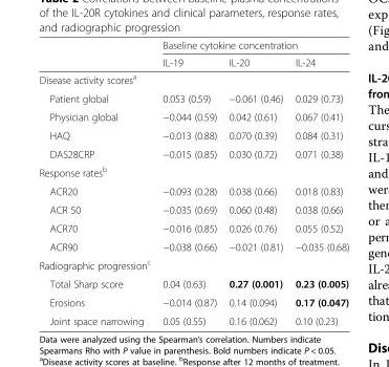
<table><thead><tr><td rowspan="2"></td><td colspan="3">Baseline cytokine concentration</td></tr><tr><td>IL-19</td><td>IL-20</td><td>IL-24</td></tr></thead><tbody><tr><td colspan="4">Disease activity scores<sup>a</sup></td></tr><tr><td>Patient global</td><td>0.053 (0.59)</td><td>−0.061 (0.46)</td><td>0.029 (0.73)</td></tr><tr><td>Physician global</td><td>−0.044 (0.59)</td><td>0.042 (0.61)</td><td>0.067 (0.41)</td></tr><tr><td>HAQ</td><td>−0.013 (0.88)</td><td>0.070 (0.39)</td><td>0.084 (0.31)</td></tr><tr><td>DAS28CRP</td><td>−0.015 (0.85)</td><td>0.030 (0.72)</td><td>0.071 (0.38)</td></tr><tr><td colspan="4">Response rates<sup>b</sup></td></tr><tr><td>ACR20</td><td>−0.093 (0.28)</td><td>0.038 (0.66)</td><td>0.018 (0.83)</td></tr><tr><td>ACR 50</td><td>−0.035 (0.69)</td><td>0.060 (0.48)</td><td>0.038 (0.66)</td></tr><tr><td>ACR70</td><td>−0.016 (0.85)</td><td>0.026 (0.76)</td><td>0.055 (0.52)</td></tr><tr><td>ACR90</td><td>−0.038 (0.66)</td><td>−0.021 (0.81)</td><td>−0.035 (0.68)</td></tr><tr><td colspan="4">Radiographic progression<sup>c</sup></td></tr><tr><td>Total Sharp score</td><td>0.04 (0.63)</td><td>0.27 (0.001)</td><td>0.23 (0.005)</td></tr><tr><td>Erosions</td><td>−0.014 (0.87)</td><td>0.14 (0.094)</td><td>0.17 (0.047)</td></tr><tr><td>Joint space narrowing</td><td>0.05 (0.55)</td><td>0.16 (0.062)</td><td>0.10 (0.23)</td></tr></tbody></table>